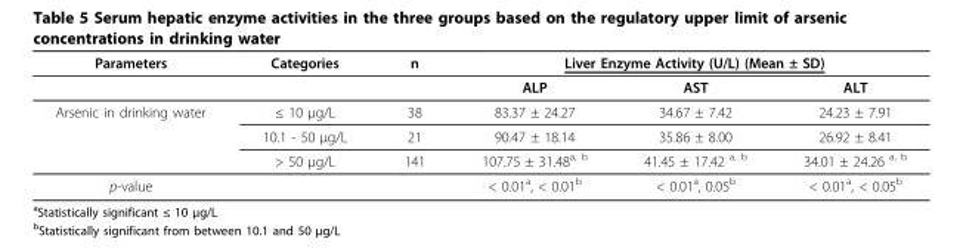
<table><thead><tr><td rowspan="2">Parameters</td><td rowspan="2">Categories</td><td rowspan="2">n</td><td colspan="3">Liver Enzyme Activity (U/L) (Mean ± SD)</td></tr><tr><td>ALP</td><td>AST</td><td>ALT</td></tr></thead><tbody><tr><td rowspan="3">Arsenic in drinking water</td><td>≤ 10 μg/L</td><td>38</td><td>83.37 ± 24.27</td><td>34.67 ± 7.42</td><td>24.23 ± 7.91</td></tr><tr><td>10.1 - 50 μg/L</td><td>21</td><td>90.47 ± 18.14</td><td>35.86 ± 8.00</td><td>26.92 ± 8.41</td></tr><tr><td>&gt; 50 μg/L</td><td>141</td><td>107.75 ± 31.48<sup>a, b</sup></td><td>41.45 ± 17.42 <sup>a, b</sup></td><td>34.01 ± 24.26 <sup>a, b</sup></td></tr><tr><td>p-value</td><td></td><td></td><td>&lt; 0.01<sup>a</sup>, &lt; 0.01<sup>b</sup></td><td>&lt; 0.01<sup>a</sup>, 0.05<sup>b</sup></td><td>&lt; 0.01<sup>a</sup>, &lt; 0.05<sup>b</sup></td></tr></tbody></table>